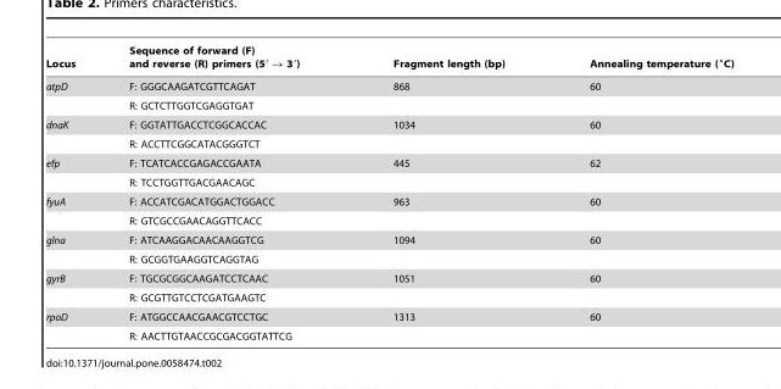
<table><thead><tr><td>Locus</td><td>Sequence of forward (F) and reverse (R) primers (5′ → 3′)</td><td>Fragment length (bp)</td><td>Annealing temperature (°C)</td></tr></thead><tbody><tr><td rowspan="2">atpD</td><td>F: GGGCAAGATCGTTCAGAT</td><td>868</td><td>60</td></tr><tr><td>R: GCTCTTGGTCGAGGTGAT</td><td></td><td></td></tr><tr><td rowspan="2">dnaK</td><td>F: GGTATTGACCTCGGCACCAC</td><td>1034</td><td>60</td></tr><tr><td>R: ACCTTCGGCATACGGGTCT</td><td></td><td></td></tr><tr><td rowspan="2">efp</td><td>F: TCATCACCGAGACCGAATA</td><td>445</td><td>62</td></tr><tr><td>R: TCCTGGTTGACGAACAGC</td><td></td><td></td></tr><tr><td rowspan="2">fyuA</td><td>F: ACCATCGACATGGACTGGACC</td><td>963</td><td>60</td></tr><tr><td>R: GTCGCCGAACAGGTTCACC</td><td></td><td></td></tr><tr><td rowspan="2">glna</td><td>F: ATCAAGGACAACAAGGTCG</td><td>1094</td><td>60</td></tr><tr><td>R: GCGGTGAAGGTCAGGTAG</td><td></td><td></td></tr><tr><td rowspan="2">gyrB</td><td>F: TGCGCGGCAAGATCCTCAAC</td><td>1051</td><td>60</td></tr><tr><td>R: GCGTTGTCCTCGATGAAGTC</td><td></td><td></td></tr><tr><td rowspan="2">rpoD</td><td>F: ATGGCCAACGAACGTCCTGC</td><td>1313</td><td>60</td></tr><tr><td>R: AACTTGTAACCGCGACGGTATTCG</td><td></td><td></td></tr></tbody></table>